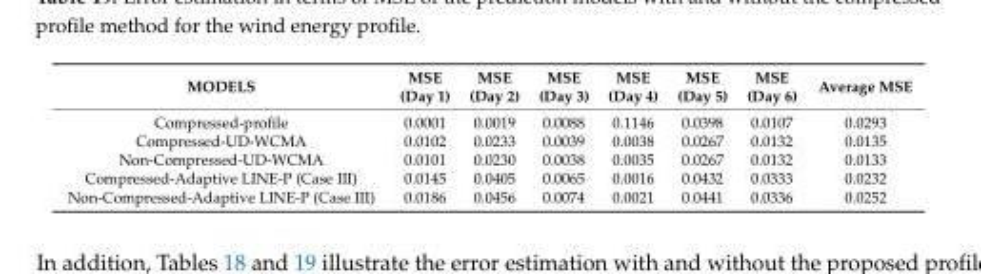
<table><thead><tr><td>MODELS</td><td>MSE (Day 1)</td><td>MSE (Day 2)</td><td>MSE (Day 3)</td><td>MSE (Day 4)</td><td>MSE (Day 5)</td><td>MSE (Day 6)</td><td>Average MSE</td></tr></thead><tbody><tr><td>Compressed-profile</td><td>0.0001</td><td>0.0019</td><td>0.0088</td><td>0.1146</td><td>0.0398</td><td>0.0107</td><td>0.0293</td></tr><tr><td>Compressed-UD-WCMA</td><td>0.0102</td><td>0.0233</td><td>0.0039</td><td>0.0038</td><td>0.0267</td><td>0.0132</td><td>0.0135</td></tr><tr><td>Non-Compressed-UD-WCMA</td><td>0.0101</td><td>0.0230</td><td>0.0038</td><td>0.0035</td><td>0.0267</td><td>0.0132</td><td>0.0133</td></tr><tr><td>Compressed-Adaptive LINE-P (Case III)</td><td>0.0145</td><td>0.0405</td><td>0.0065</td><td>0.0016</td><td>0.0432</td><td>0.0333</td><td>0.0232</td></tr><tr><td>Non-Compressed-Adaptive LINE-P (Case III)</td><td>0.0186</td><td>0.0456</td><td>0.0074</td><td>0.0021</td><td>0.0441</td><td>0.0336</td><td>0.0252</td></tr></tbody></table>